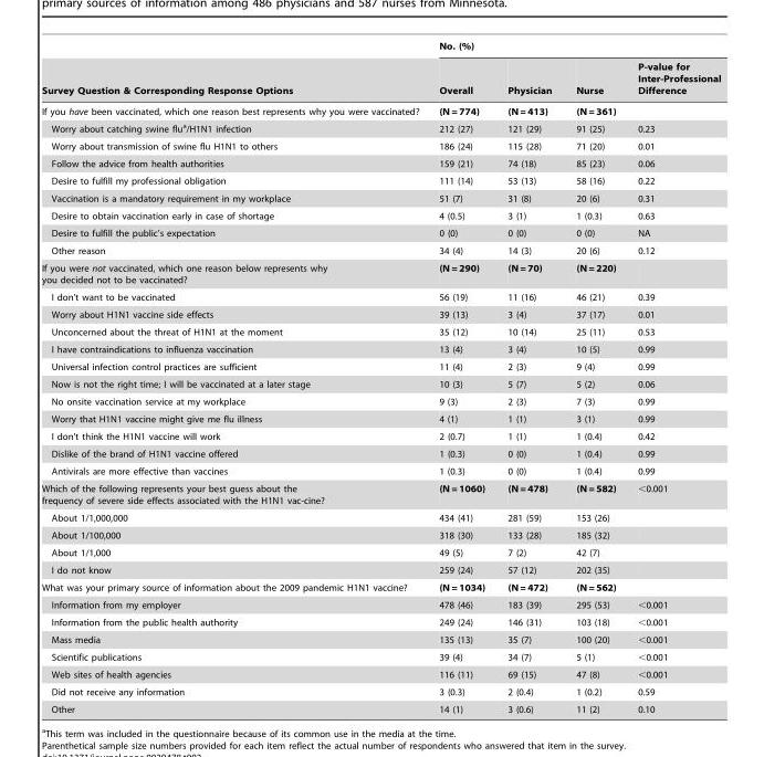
<table><thead><tr><td rowspan="2">Survey Question &amp; Corresponding Response Options</td><td colspan="4">No. (%)</td></tr><tr><td>Overall</td><td>Physician</td><td>Nurse</td><td>P-value for Inter-Professional Difference</td></tr></thead><tbody><tr><td>If you have been vaccinated, which one reason best represents why you were vaccinated?</td><td>(N = 774)</td><td>(N = 413)</td><td>(N = 361)</td><td></td></tr><tr><td>Worry about catching swine flu<sup>a</sup>/H1N1 infection</td><td>212 (27)</td><td>121 (29)</td><td>91 (25)</td><td>0.23</td></tr><tr><td>Worry about transmission of swine flu H1N1 to others</td><td>186 (24)</td><td>115 (28)</td><td>71 (20)</td><td>0.01</td></tr><tr><td>Follow the advice from health authorities</td><td>159 (21)</td><td>74 (18)</td><td>85 (23)</td><td>0.06</td></tr><tr><td>Desire to fulfill my professional obligation</td><td>111 (14)</td><td>53 (13)</td><td>58 (16)</td><td>0.22</td></tr><tr><td>Vaccination is a mandatory requirement in my workplace</td><td>51 (7)</td><td>31 (8)</td><td>20 (6)</td><td>0.31</td></tr><tr><td>Desire to obtain vaccination early in case of shortage</td><td>4 (0.5)</td><td>3 (1)</td><td>1 (0.3)</td><td>0.63</td></tr><tr><td>Desire to fulfill the public’s expectation</td><td>0 (0)</td><td>0 (0)</td><td>0 (0)</td><td>NA</td></tr><tr><td>Other reason</td><td>34 (4)</td><td>14 (3)</td><td>20 (6)</td><td>0.12</td></tr><tr><td>If you were not vaccinated, which one reason below represents why you decided not to be vaccinated?</td><td>(N = 290)</td><td>(N = 70)</td><td>(N = 220)</td><td></td></tr><tr><td>I don’t want to be vaccinated</td><td>56 (19)</td><td>11 (16)</td><td>46 (21)</td><td>0.39</td></tr><tr><td>Worry about H1N1 vaccine side effects</td><td>39 (13)</td><td>3 (4)</td><td>37 (17)</td><td>0.01</td></tr><tr><td>Unconcerned about the threat of H1N1 at the moment</td><td>35 (12)</td><td>10 (14)</td><td>25 (11)</td><td>0.53</td></tr><tr><td>I have contraindications to influenza vaccination</td><td>13 (4)</td><td>3 (4)</td><td>10 (5)</td><td>0.99</td></tr><tr><td>Universal infection control practices are sufficient</td><td>11 (4)</td><td>2 (3)</td><td>9 (4)</td><td>0.99</td></tr><tr><td>Now is not the right time; I will be vaccinated at a later stage</td><td>10 (3)</td><td>5 (7)</td><td>5 (2)</td><td>0.06</td></tr><tr><td>No onsite vaccination service at my workplace</td><td>9 (3)</td><td>2 (3)</td><td>7 (3)</td><td>0.99</td></tr><tr><td>Worry that H1N1 vaccine might give me flu illness</td><td>4 (1)</td><td>1 (1)</td><td>3 (1)</td><td>0.99</td></tr><tr><td>I don’t think the H1N1 vaccine will work</td><td>2 (0.7)</td><td>1 (1)</td><td>1 (0.4)</td><td>0.42</td></tr><tr><td>Dislike of the brand of H1N1 vaccine offered</td><td>1 (0.3)</td><td>0 (0)</td><td>1 (0.4)</td><td>0.99</td></tr><tr><td>Antivirals are more effective than vaccines</td><td>1 (0.3)</td><td>0 (0)</td><td>1 (0.4)</td><td>0.99</td></tr><tr><td>Which of the following represents your best guess about the frequency of severe side effects associated with the H1N1 vac-cine?</td><td>(N = 1060)</td><td>(N = 478)</td><td>(N = 582)</td><td>&lt;0.001</td></tr><tr><td>About 1/1,000,000</td><td>434 (41)</td><td>281 (59)</td><td>153 (26)</td><td></td></tr><tr><td>About 1/100,000</td><td>318 (30)</td><td>133 (28)</td><td>185 (32)</td><td></td></tr><tr><td>About 1/1,000</td><td>49 (5)</td><td>7 (2)</td><td>42 (7)</td><td></td></tr><tr><td>I do not know</td><td>259 (24)</td><td>57 (12)</td><td>202 (35)</td><td></td></tr><tr><td>What was your primary source of information about the 2009 pandemic H1N1 vaccine?</td><td>(N = 1034)</td><td>(N = 472)</td><td>(N = 562)</td><td></td></tr><tr><td>Information from my employer</td><td>478 (46)</td><td>183 (39)</td><td>295 (53)</td><td>&lt;0.001</td></tr><tr><td>Information from the public health authority</td><td>249 (24)</td><td>146 (31)</td><td>103 (18)</td><td>&lt;0.001</td></tr><tr><td>Mass media</td><td>135 (13)</td><td>35 (7)</td><td>100 (20)</td><td>&lt;0.001</td></tr><tr><td>Scientific publications</td><td>39 (4)</td><td>34 (7)</td><td>5 (1)</td><td>&lt;0.001</td></tr><tr><td>Web sites of health agencies</td><td>116 (11)</td><td>69 (15)</td><td>47 (8)</td><td>&lt;0.001</td></tr><tr><td>Did not receive any information</td><td>3 (0.3)</td><td>2 (0.4)</td><td>1 (0.2)</td><td>0.59</td></tr><tr><td>Other</td><td>14 (1)</td><td>3 (0.6)</td><td>11 (2)</td><td>0.10</td></tr></tbody></table>